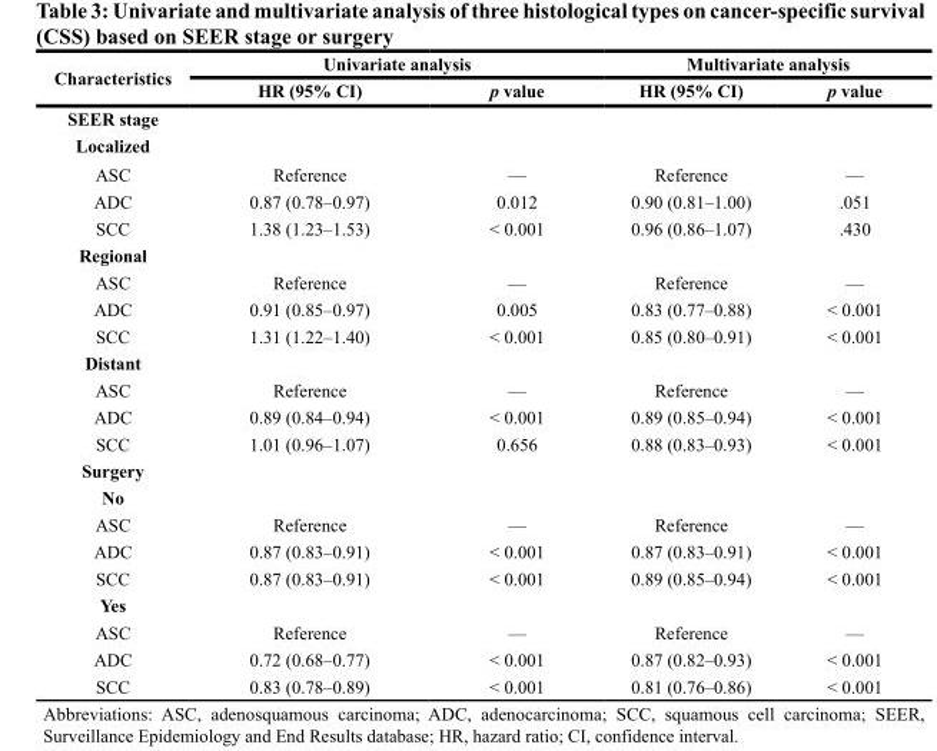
<table><thead><tr><td rowspan="2">Characteristics</td><td colspan="2">Univariate analysis</td><td colspan="2">Multivariate analysis</td></tr><tr><td>HR (95% CI)</td><td>p value</td><td>HR (95% CI)</td><td>p value</td></tr></thead><tbody><tr><td colspan="5">SEER stage</td></tr><tr><td colspan="5">Localized</td></tr><tr><td>ASC</td><td>Reference</td><td>—</td><td>Reference</td><td>—</td></tr><tr><td>ADC</td><td>0.87 (0.78–0.97)</td><td>0.012</td><td>0.90 (0.81–1.00)</td><td>.051</td></tr><tr><td>SCC</td><td>1.38 (1.23–1.53)</td><td>&lt; 0.001</td><td>0.96 (0.86–1.07)</td><td>.430</td></tr><tr><td colspan="5">Regional</td></tr><tr><td>ASC</td><td>Reference</td><td>—</td><td>Reference</td><td>—</td></tr><tr><td>ADC</td><td>0.91 (0.85–0.97)</td><td>0.005</td><td>0.83 (0.77–0.88)</td><td>&lt; 0.001</td></tr><tr><td>SCC</td><td>1.31 (1.22–1.40)</td><td>&lt; 0.001</td><td>0.85 (0.80–0.91)</td><td>&lt; 0.001</td></tr><tr><td colspan="5">Distant</td></tr><tr><td>ASC</td><td>Reference</td><td>—</td><td>Reference</td><td>—</td></tr><tr><td>ADC</td><td>0.89 (0.84–0.94)</td><td>&lt; 0.001</td><td>0.89 (0.85–0.94)</td><td>&lt; 0.001</td></tr><tr><td>SCC</td><td>1.01 (0.96–1.07)</td><td>0.656</td><td>0.88 (0.83–0.93)</td><td>&lt; 0.001</td></tr><tr><td colspan="5">Surgery</td></tr><tr><td colspan="5">No</td></tr><tr><td>ASC</td><td>Reference</td><td>—</td><td>Reference</td><td>—</td></tr><tr><td>ADC</td><td>0.87 (0.83–0.91)</td><td>&lt; 0.001</td><td>0.87 (0.83–0.91)</td><td>&lt; 0.001</td></tr><tr><td>SCC</td><td>0.87 (0.83–0.91)</td><td>&lt; 0.001</td><td>0.89 (0.85–0.94)</td><td>&lt; 0.001</td></tr><tr><td colspan="5">Yes</td></tr><tr><td>ASC</td><td>Reference</td><td>—</td><td>Reference</td><td>—</td></tr><tr><td>ADC</td><td>0.72 (0.68–0.77)</td><td>&lt; 0.001</td><td>0.87 (0.82–0.93)</td><td>&lt; 0.001</td></tr><tr><td>SCC</td><td>0.83 (0.78–0.89)</td><td>&lt; 0.001</td><td>0.81 (0.76–0.86)</td><td>&lt; 0.001</td></tr></tbody></table>